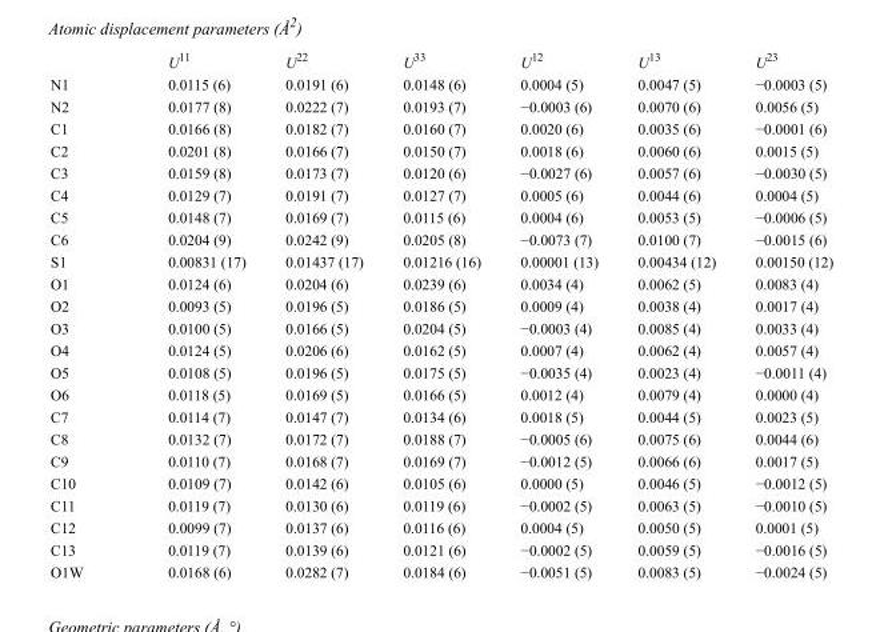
<table><thead><tr><td></td><td>U<sup>11</sup></td><td>U<sup>22</sup></td><td>U<sup>33</sup></td><td>U<sup>12</sup></td><td>U<sup>13</sup></td><td>U<sup>23</sup></td></tr></thead><tbody><tr><td>N1</td><td>0.0115 (6)</td><td>0.0191 (6)</td><td>0.0148 (6)</td><td>0.0004 (5)</td><td>0.0047 (5)</td><td>−0.0003 (5)</td></tr><tr><td>N2</td><td>0.0177 (8)</td><td>0.0222 (7)</td><td>0.0193 (7)</td><td>−0.0003 (6)</td><td>0.0070 (6)</td><td>0.0056 (5)</td></tr><tr><td>C1</td><td>0.0166 (8)</td><td>0.0182 (7)</td><td>0.0160 (7)</td><td>0.0020 (6)</td><td>0.0035 (6)</td><td>−0.0001 (6)</td></tr><tr><td>C2</td><td>0.0201 (8)</td><td>0.0166 (7)</td><td>0.0150 (7)</td><td>0.0018 (6)</td><td>0.0060 (6)</td><td>0.0015 (5)</td></tr><tr><td>C3</td><td>0.0159 (8)</td><td>0.0173 (7)</td><td>0.0120 (6)</td><td>−0.0027 (6)</td><td>0.0057 (6)</td><td>−0.0030 (5)</td></tr><tr><td>C4</td><td>0.0129 (7)</td><td>0.0191 (7)</td><td>0.0127 (7)</td><td>0.0005 (6)</td><td>0.0044 (6)</td><td>0.0004 (5)</td></tr><tr><td>C5</td><td>0.0148 (7)</td><td>0.0169 (7)</td><td>0.0115 (6)</td><td>0.0004 (6)</td><td>0.0053 (5)</td><td>−0.0006 (5)</td></tr><tr><td>C6</td><td>0.0204 (9)</td><td>0.0242 (9)</td><td>0.0205 (8)</td><td>−0.0073 (7)</td><td>0.0100 (7)</td><td>−0.0015 (6)</td></tr><tr><td>S1</td><td>0.00831 (17)</td><td>0.01437 (17)</td><td>0.01216 (16)</td><td>0.00001 (13)</td><td>0.00434 (12)</td><td>0.00150 (12)</td></tr><tr><td>O1</td><td>0.0124 (6)</td><td>0.0204 (6)</td><td>0.0239 (6)</td><td>0.0034 (4)</td><td>0.0062 (5)</td><td>0.0083 (4)</td></tr><tr><td>O2</td><td>0.0093 (5)</td><td>0.0196 (5)</td><td>0.0186 (5)</td><td>0.0009 (4)</td><td>0.0038 (4)</td><td>0.0017 (4)</td></tr><tr><td>O3</td><td>0.0100 (5)</td><td>0.0166 (5)</td><td>0.0204 (5)</td><td>−0.0003 (4)</td><td>0.0085 (4)</td><td>0.0033 (4)</td></tr><tr><td>O4</td><td>0.0124 (5)</td><td>0.0206 (6)</td><td>0.0162 (5)</td><td>0.0007 (4)</td><td>0.0062 (4)</td><td>0.0057 (4)</td></tr><tr><td>O5</td><td>0.0108 (5)</td><td>0.0196 (5)</td><td>0.0175 (5)</td><td>−0.0035 (4)</td><td>0.0023 (4)</td><td>−0.0011 (4)</td></tr><tr><td>O6</td><td>0.0118 (5)</td><td>0.0169 (5)</td><td>0.0166 (5)</td><td>0.0012 (4)</td><td>0.0079 (4)</td><td>0.0000 (4)</td></tr><tr><td>C7</td><td>0.0114 (7)</td><td>0.0147 (7)</td><td>0.0134 (6)</td><td>0.0018 (5)</td><td>0.0044 (5)</td><td>0.0023 (5)</td></tr><tr><td>C8</td><td>0.0132 (7)</td><td>0.0172 (7)</td><td>0.0188 (7)</td><td>−0.0005 (6)</td><td>0.0075 (6)</td><td>0.0044 (6)</td></tr><tr><td>C9</td><td>0.0110 (7)</td><td>0.0168 (7)</td><td>0.0169 (7)</td><td>−0.0012 (5)</td><td>0.0066 (6)</td><td>0.0017 (5)</td></tr><tr><td>C10</td><td>0.0109 (7)</td><td>0.0142 (6)</td><td>0.0105 (6)</td><td>0.0000 (5)</td><td>0.0046 (5)</td><td>−0.0012 (5)</td></tr><tr><td>C11</td><td>0.0119 (7)</td><td>0.0130 (6)</td><td>0.0119 (6)</td><td>−0.0002 (5)</td><td>0.0063 (5)</td><td>−0.0010 (5)</td></tr><tr><td>C12</td><td>0.0099 (7)</td><td>0.0137 (6)</td><td>0.0116 (6)</td><td>0.0004 (5)</td><td>0.0050 (5)</td><td>0.0001 (5)</td></tr><tr><td>C13</td><td>0.0119 (7)</td><td>0.0139 (6)</td><td>0.0121 (6)</td><td>−0.0002 (5)</td><td>0.0059 (5)</td><td>−0.0016 (5)</td></tr><tr><td>O1W</td><td>0.0168 (6)</td><td>0.0282 (7)</td><td>0.0184 (6)</td><td>−0.0051 (5)</td><td>0.0083 (5)</td><td>−0.0024 (5)</td></tr></tbody></table>